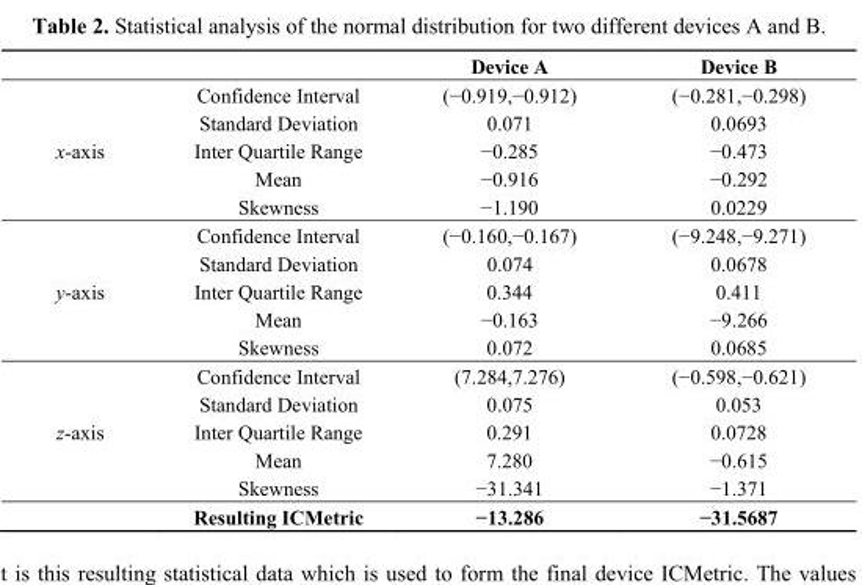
<table><thead><tr><td></td><td></td><td>Device A</td><td>Device B</td></tr></thead><tbody><tr><td rowspan="5">x-axis</td><td>Confidence Interval</td><td>(−0.919,−0.912)</td><td>(−0.281,−0.298)</td></tr><tr><td>Standard Deviation</td><td>0.071</td><td>0.0693</td></tr><tr><td>Inter Quartile Range</td><td>−0.285</td><td>−0.473</td></tr><tr><td>Mean</td><td>−0.916</td><td>−0.292</td></tr><tr><td>Skewness</td><td>−1.190</td><td>0.0229</td></tr><tr><td rowspan="5">y-axis</td><td>Confidence Interval</td><td>(−0.160,−0.167)</td><td>(−9.248,−9.271)</td></tr><tr><td>Standard Deviation</td><td>0.074</td><td>0.0678</td></tr><tr><td>Inter Quartile Range</td><td>0.344</td><td>0.411</td></tr><tr><td>Mean</td><td>−0.163</td><td>−9.266</td></tr><tr><td>Skewness</td><td>0.072</td><td>0.0685</td></tr><tr><td rowspan="6">z-axis</td><td>Confidence Interval</td><td>(7.284,7.276)</td><td>(−0.598,−0.621)</td></tr><tr><td>Standard Deviation</td><td>0.075</td><td>0.053</td></tr><tr><td>Inter Quartile Range</td><td>0.291</td><td>0.0728</td></tr><tr><td>Mean</td><td>7.280</td><td>−0.615</td></tr><tr><td>Skewness</td><td>−31.341</td><td>−1.371</td></tr><tr><td>Resulting ICMetric</td><td>−13.286</td><td>−31.5687</td></tr></tbody></table>